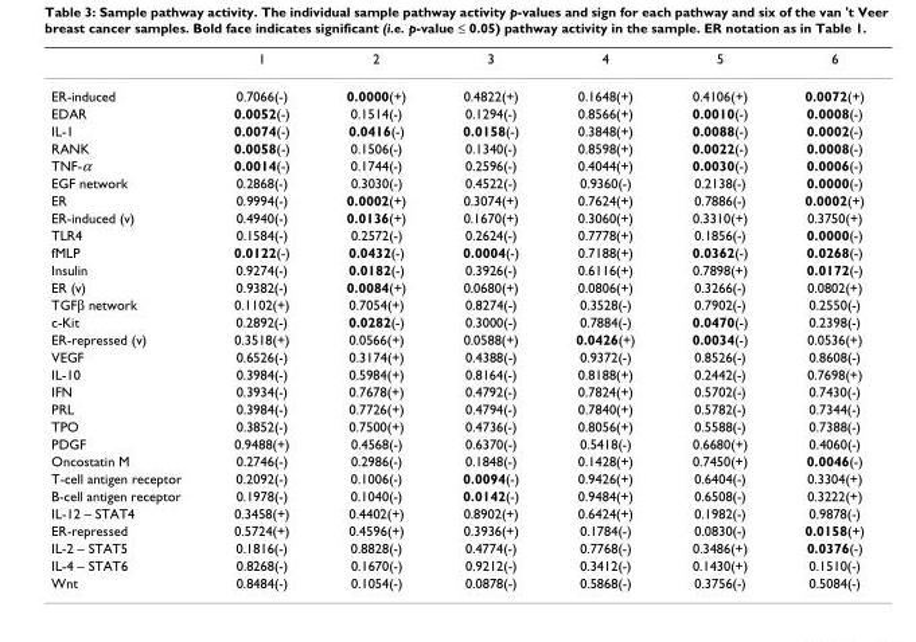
<table><thead><tr><td></td><td>1</td><td>2</td><td>3</td><td>4</td><td>5</td><td>6</td></tr></thead><tbody><tr><td>ER-induced</td><td>0.7066(-)</td><td>0.0000(+)</td><td>0.4822(+)</td><td>0.1648(+)</td><td>0.4106(+)</td><td>0.0072(+)</td></tr><tr><td>EDAR</td><td>0.0052(-)</td><td>0.1514(-)</td><td>0.1294(-)</td><td>0.8566(+)</td><td>0.0010(-)</td><td>0.0008(-)</td></tr><tr><td>IL-1</td><td>0.0074(-)</td><td>0.0416(-)</td><td>0.0158(-)</td><td>0.3848(+)</td><td>0.0088(-)</td><td>0.0002(-)</td></tr><tr><td>RANK</td><td>0.0058(-)</td><td>0.1506(-)</td><td>0.1340(-)</td><td>0.8598(+)</td><td>0.0022(-)</td><td>0.0008(-)</td></tr><tr><td>TNF-α</td><td>0.0014(-)</td><td>0.1744(-)</td><td>0.2596(-)</td><td>0.4044(+)</td><td>0.0030(-)</td><td>0.0006(-)</td></tr><tr><td>EGF network</td><td>0.2868(-)</td><td>0.3030(-)</td><td>0.4522(-)</td><td>0.9360(-)</td><td>0.2138(-)</td><td>0.0000(-)</td></tr><tr><td>ER</td><td>0.9994(-)</td><td>0.0002(+)</td><td>0.3074(+)</td><td>0.7624(+)</td><td>0.7886(-)</td><td>0.0002(+)</td></tr><tr><td>ER-induced (v)</td><td>0.4940(-)</td><td>0.0136(+)</td><td>0.1670(+)</td><td>0.3060(+)</td><td>0.3310(+)</td><td>0.3750(+)</td></tr><tr><td>TLR4</td><td>0.1584(-)</td><td>0.2572(-)</td><td>0.2624(-)</td><td>0.7778(+)</td><td>0.1856(-)</td><td>0.0000(-)</td></tr><tr><td>fMLP</td><td>0.0122(-)</td><td>0.0432(-)</td><td>0.0004(-)</td><td>0.7188(+)</td><td>0.0362(-)</td><td>0.0268(-)</td></tr><tr><td>Insulin</td><td>0.9274(-)</td><td>0.0182(-)</td><td>0.3926(-)</td><td>0.6116(+)</td><td>0.7898(+)</td><td>0.0172(-)</td></tr><tr><td>ER (v)</td><td>0.9382(-)</td><td>0.0084(+)</td><td>0.0680(+)</td><td>0.0806(+)</td><td>0.3266(-)</td><td>0.0802(+)</td></tr><tr><td>TGFβ network</td><td>0.1102(+)</td><td>0.7054(+)</td><td>0.8274(-)</td><td>0.3528(-)</td><td>0.7902(-)</td><td>0.2550(-)</td></tr><tr><td>c-Kit</td><td>0.2892(-)</td><td>0.0282(-)</td><td>0.3000(-)</td><td>0.7884(-)</td><td>0.0470(-)</td><td>0.2398(-)</td></tr><tr><td>ER-repressed (v)</td><td>0.3518(+)</td><td>0.0566(+)</td><td>0.0588(+)</td><td>0.0426(+)</td><td>0.0034(-)</td><td>0.0536(+)</td></tr><tr><td>VEGF</td><td>0.6526(-)</td><td>0.3174(+)</td><td>0.4388(-)</td><td>0.9372(-)</td><td>0.8526(-)</td><td>0.8608(-)</td></tr><tr><td>IL-10</td><td>0.3984(-)</td><td>0.5984(+)</td><td>0.8164(-)</td><td>0.8188(+)</td><td>0.2442(-)</td><td>0.7698(+)</td></tr><tr><td>IFN</td><td>0.3934(-)</td><td>0.7678(+)</td><td>0.4792(-)</td><td>0.7824(+)</td><td>0.5702(-)</td><td>0.7430(-)</td></tr><tr><td>PRL</td><td>0.3984(-)</td><td>0.7726(+)</td><td>0.4794(-)</td><td>0.7840(+)</td><td>0.5782(-)</td><td>0.7344(-)</td></tr><tr><td>TPO</td><td>0.3852(-)</td><td>0.7500(+)</td><td>0.4736(-)</td><td>0.8056(+)</td><td>0.5588(-)</td><td>0.7388(-)</td></tr><tr><td>PDGF</td><td>0.9488(+)</td><td>0.4568(-)</td><td>0.6370(-)</td><td>0.5418(-)</td><td>0.6680(+)</td><td>0.4060(-)</td></tr><tr><td>Oncostatin M</td><td>0.2746(-)</td><td>0.2986(-)</td><td>0.1848(-)</td><td>0.1428(+)</td><td>0.7450(+)</td><td>0.0046(-)</td></tr><tr><td>T-cell antigen receptor</td><td>0.2092(-)</td><td>0.1006(-)</td><td>0.0094(-)</td><td>0.9426(+)</td><td>0.6404(-)</td><td>0.3304(+)</td></tr><tr><td>B-cell antigen receptor</td><td>0.1978(-)</td><td>0.1040(-)</td><td>0.0142(-)</td><td>0.9484(+)</td><td>0.6508(-)</td><td>0.3222(+)</td></tr><tr><td>IL-12 – STAT4</td><td>0.3458(+)</td><td>0.4402(+)</td><td>0.8902(+)</td><td>0.6424(+)</td><td>0.1982(-)</td><td>0.9878(-)</td></tr><tr><td>ER-repressed</td><td>0.5724(+)</td><td>0.4596(+)</td><td>0.3936(+)</td><td>0.1784(-)</td><td>0.0830(-)</td><td>0.0158(+)</td></tr><tr><td>IL-2 – STAT5</td><td>0.1816(-)</td><td>0.8828(-)</td><td>0.4774(-)</td><td>0.7768(-)</td><td>0.3486(+)</td><td>0.0376(-)</td></tr><tr><td>IL-4 – STAT6</td><td>0.8268(-)</td><td>0.1670(-)</td><td>0.9212(-)</td><td>0.3412(-)</td><td>0.1430(+)</td><td>0.1510(-)</td></tr><tr><td>Wnt</td><td>0.8484(-)</td><td>0.1054(-)</td><td>0.0878(-)</td><td>0.5868(-)</td><td>0.3756(-)</td><td>0.5084(-)</td></tr></tbody></table>